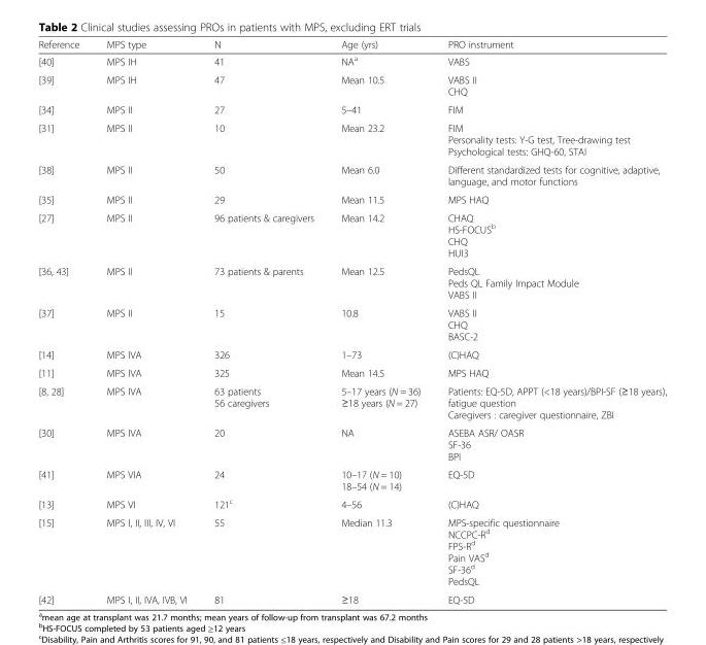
<table><thead><tr><td>Reference</td><td>MPS type</td><td>N</td><td>Age (yrs)</td><td>PRO instrument</td></tr></thead><tbody><tr><td>[40]</td><td>MPS IH</td><td>41</td><td>NA<sup>a</sup></td><td>VABS</td></tr><tr><td>[39]</td><td>MPS IH</td><td>47</td><td>Mean 10.5</td><td>VABS II CHQ</td></tr><tr><td>[34]</td><td>MPS II</td><td>27</td><td>5–41</td><td>FIM</td></tr><tr><td>[31]</td><td>MPS II</td><td>10</td><td>Mean 23.2</td><td>FIM Personality tests: Y-G test, Tree-drawing test Psychological tests: GHQ-60, STAI</td></tr><tr><td>[38]</td><td>MPS II</td><td>50</td><td>Mean 6.0</td><td>Different standardized tests for cognitive, adaptive, language, and motor functions</td></tr><tr><td>[35]</td><td>MPS II</td><td>29</td><td>Mean 11.5</td><td>MPS HAQ</td></tr><tr><td>[27]</td><td>MPS II</td><td>96 patients &amp; caregivers</td><td>Mean 14.2</td><td>CHAQ HS-FOCUS<sup>b</sup> CHQ HUI3</td></tr><tr><td>[36, 43]</td><td>MPS II</td><td>73 patients &amp; parents</td><td>Mean 12.5</td><td>PedsQL Peds QL Family Impact Module VABS II</td></tr><tr><td>[37]</td><td>MPS II</td><td>15</td><td>10.8</td><td>VABS II CHQ BASC-2</td></tr><tr><td>[14]</td><td>MPS IVA</td><td>326</td><td>1–73</td><td>(C)HAQ</td></tr><tr><td>[11]</td><td>MPS IVA</td><td>325</td><td>Mean 14.5</td><td>MPS HAQ</td></tr><tr><td>[8, 28]</td><td>MPS IVA</td><td>63 patients 56 caregivers</td><td>5–17 years (N = 36) ≥18 years (N = 27)</td><td>Patients: EQ-5D, APPT (&lt;18 years)/BPI-SF (≥18 years), fatigue question Caregivers : caregiver questionnaire, ZBI</td></tr><tr><td>[30]</td><td>MPS IVA</td><td>20</td><td>NA</td><td>ASEBA ASR/ OASR SF-36 BPI</td></tr><tr><td>[41]</td><td>MPS VIA</td><td>24</td><td>10–17 (N = 10) 18–54 (N = 14)</td><td>EQ-5D</td></tr><tr><td>[13]</td><td>MPS VI</td><td>121<sup>c</sup></td><td>4–56</td><td>(C)HAQ</td></tr><tr><td>[15]</td><td>MPS I, II, III, IV, VI</td><td>55</td><td>Median 11.3</td><td>MPS-specific questionnaire NCCPC-R<sup>d</sup> FPS-R<sup>d</sup> Pain VAS<sup>d</sup> SF-36<sup>d</sup> PedsQL</td></tr><tr><td>[42]</td><td>MPS I, II, IVA, IVB, VI</td><td>81</td><td>≥18</td><td>EQ-5D</td></tr></tbody></table>